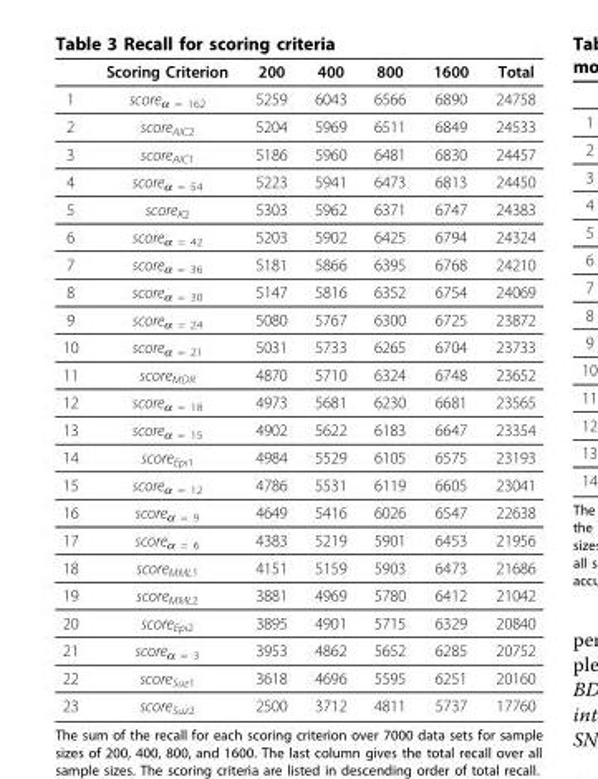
<table><thead><tr><td></td><td>Scoring Criterion</td><td>200</td><td>400</td><td>800</td><td>1600</td><td>Total</td></tr></thead><tbody><tr><td>1</td><td>score<sub>α = 162</sub></td><td>5259</td><td>6043</td><td>6566</td><td>6890</td><td>24758</td></tr><tr><td>2</td><td>score<sub>AIC2</sub></td><td>5204</td><td>5969</td><td>6511</td><td>6849</td><td>24533</td></tr><tr><td>3</td><td>score<sub>AIC1</sub></td><td>5186</td><td>5960</td><td>6481</td><td>6830</td><td>24457</td></tr><tr><td>4</td><td>score<sub>α = 54</sub></td><td>5223</td><td>5941</td><td>6473</td><td>6813</td><td>24450</td></tr><tr><td>5</td><td>score<sub>K2</sub></td><td>5303</td><td>5962</td><td>6371</td><td>6747</td><td>24383</td></tr><tr><td>6</td><td>score<sub>α = 42</sub></td><td>5203</td><td>5902</td><td>6425</td><td>6794</td><td>24324</td></tr><tr><td>7</td><td>score<sub>α = 36</sub></td><td>5181</td><td>5866</td><td>6395</td><td>6768</td><td>24210</td></tr><tr><td>8</td><td>score<sub>α = 30</sub></td><td>5147</td><td>5816</td><td>6352</td><td>6754</td><td>24069</td></tr><tr><td>9</td><td>score<sub>α = 24</sub></td><td>5080</td><td>5767</td><td>6300</td><td>6725</td><td>23872</td></tr><tr><td>10</td><td>score<sub>α = 21</sub></td><td>5031</td><td>5733</td><td>6265</td><td>6704</td><td>23733</td></tr><tr><td>11</td><td>score<sub>MDR</sub></td><td>4870</td><td>5710</td><td>6324</td><td>6748</td><td>23652</td></tr><tr><td>12</td><td>score<sub>α = 18</sub></td><td>4973</td><td>5681</td><td>6230</td><td>6681</td><td>23565</td></tr><tr><td>13</td><td>score<sub>α = 15</sub></td><td>4902</td><td>5622</td><td>6183</td><td>6647</td><td>23354</td></tr><tr><td>14</td><td>score<sub>Epi1</sub></td><td>4984</td><td>5529</td><td>6105</td><td>6575</td><td>23193</td></tr><tr><td>15</td><td>score<sub>α = 12</sub></td><td>4786</td><td>5531</td><td>6119</td><td>6605</td><td>23041</td></tr><tr><td>16</td><td>score<sub>α = 9</sub></td><td>4649</td><td>5416</td><td>6026</td><td>6547</td><td>22638</td></tr><tr><td>17</td><td>score<sub>α = 6</sub></td><td>4383</td><td>5219</td><td>5901</td><td>6453</td><td>21956</td></tr><tr><td>18</td><td>score<sub>MML1</sub></td><td>4151</td><td>5159</td><td>5903</td><td>6473</td><td>21686</td></tr><tr><td>19</td><td>score<sub>MML2</sub></td><td>3881</td><td>4969</td><td>5780</td><td>6412</td><td>21042</td></tr><tr><td>20</td><td>score<sub>Epi2</sub></td><td>3895</td><td>4901</td><td>5715</td><td>6329</td><td>20840</td></tr><tr><td>21</td><td>score<sub>α = 3</sub></td><td>3953</td><td>4862</td><td>5652</td><td>6285</td><td>20752</td></tr><tr><td>22</td><td>score<sub>Suz1</sub></td><td>3618</td><td>4696</td><td>5595</td><td>6251</td><td>20160</td></tr><tr><td>23</td><td>score<sub>Suz2</sub></td><td>2500</td><td>3712</td><td>4811</td><td>5737</td><td>17760</td></tr></tbody></table>